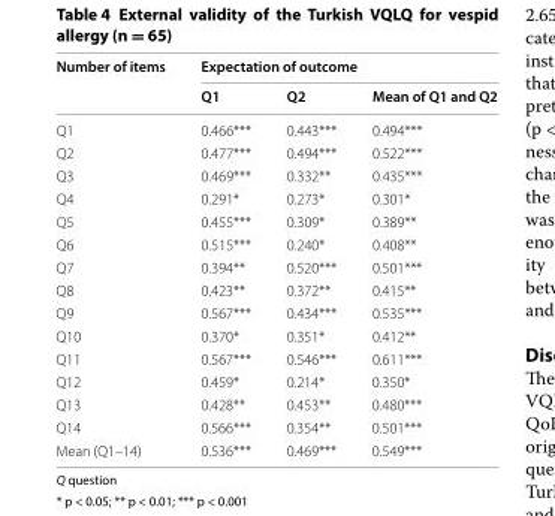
<table><thead><tr><td rowspan="2">Number of items</td><td colspan="3">Expectation of outcome</td></tr><tr><td>Q1</td><td>Q2</td><td>Mean of Q1 and Q2</td></tr></thead><tbody><tr><td>Q1</td><td>0.466***</td><td>0.443***</td><td>0.494***</td></tr><tr><td>Q2</td><td>0.477***</td><td>0.494***</td><td>0.522***</td></tr><tr><td>Q3</td><td>0.469***</td><td>0.332**</td><td>0.435***</td></tr><tr><td>Q4</td><td>0.291*</td><td>0.273*</td><td>0.301*</td></tr><tr><td>Q5</td><td>0.455***</td><td>0.309*</td><td>0.389**</td></tr><tr><td>Q6</td><td>0.515***</td><td>0.240*</td><td>0.408**</td></tr><tr><td>Q7</td><td>0.394**</td><td>0.520***</td><td>0.501***</td></tr><tr><td>Q8</td><td>0.423**</td><td>0.372**</td><td>0.415**</td></tr><tr><td>Q9</td><td>0.567***</td><td>0.434***</td><td>0.535***</td></tr><tr><td>Q10</td><td>0.370*</td><td>0.351*</td><td>0.412**</td></tr><tr><td>Q11</td><td>0.567***</td><td>0.546***</td><td>0.611***</td></tr><tr><td>Q12</td><td>0.459*</td><td>0.214*</td><td>0.350*</td></tr><tr><td>Q13</td><td>0.428**</td><td>0.453**</td><td>0.480***</td></tr><tr><td>Q14</td><td>0.566***</td><td>0.354**</td><td>0.501***</td></tr><tr><td>Mean (Q1–14)</td><td>0.536***</td><td>0.469***</td><td>0.549***</td></tr></tbody></table>